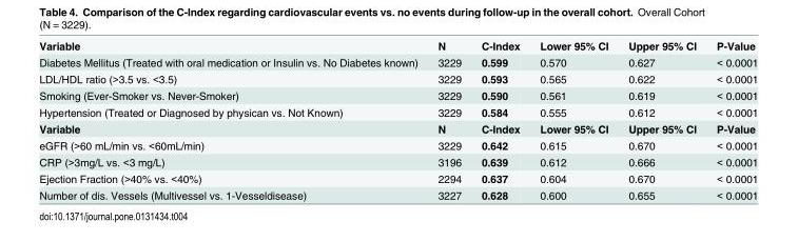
<table><tbody><tr><td>Variable</td><td>N</td><td>C-Index</td><td>Lower 95% CI</td><td>Upper 95% CI</td><td>P-Value</td></tr><tr><td>Diabetes Mellitus (Treated with oral medication or Insulin vs. No Diabetes known)</td><td>3229</td><td>0.599</td><td>0.570</td><td>0.627</td><td>&lt; 0.0001</td></tr><tr><td>LDL/HDL ratio (&gt;3.5 vs. &lt;3.5)</td><td>3229</td><td>0.593</td><td>0.565</td><td>0.622</td><td>&lt; 0.0001</td></tr><tr><td>Smoking (Ever-Smoker vs. Never-Smoker)</td><td>3229</td><td>0.590</td><td>0.561</td><td>0.619</td><td>&lt; 0.0001</td></tr><tr><td>Hypertension (Treated or Diagnosed by physican vs. Not Known)</td><td>3229</td><td>0.584</td><td>0.555</td><td>0.612</td><td>&lt; 0.0001</td></tr><tr><td>Variable</td><td>N</td><td>C-Index</td><td>Lower 95% CI</td><td>Upper 95% CI</td><td>P-Value</td></tr><tr><td>eGFR (&gt;60 mL/min vs. &lt;60mL/min)</td><td>3229</td><td>0.642</td><td>0.615</td><td>0.670</td><td>&lt; 0.0001</td></tr><tr><td>CRP (&gt;3mg/L vs. &lt;3 mg/L)</td><td>3196</td><td>0.639</td><td>0.612</td><td>0.666</td><td>&lt; 0.0001</td></tr><tr><td>Ejection Fraction (&gt;40% vs. &lt;40%)</td><td>2294</td><td>0.637</td><td>0.604</td><td>0.670</td><td>&lt; 0.0001</td></tr><tr><td>Number of dis. Vessels (Multivessel vs. 1-Vesseldisease)</td><td>3227</td><td>0.628</td><td>0.600</td><td>0.655</td><td>&lt; 0.0001</td></tr></tbody></table>